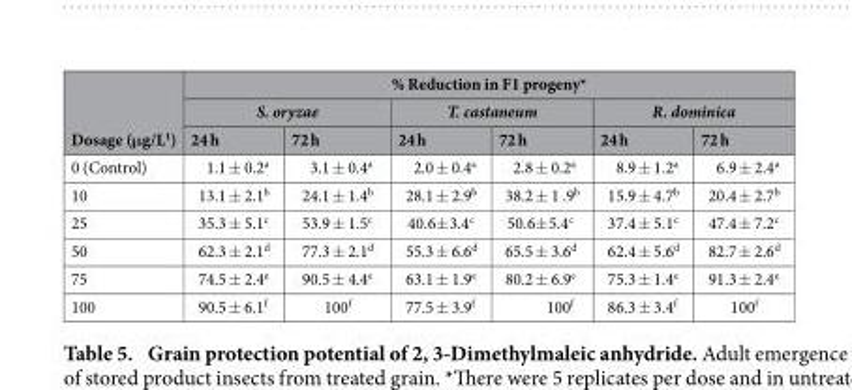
<table><thead><tr><td rowspan="3">Dosage (μg/L<sup>1</sup>)</td><td colspan="6">% Reduction in F1 progeny*</td></tr><tr><td colspan="2">S. oryzae</td><td colspan="2">T. castaneum</td><td colspan="2">R. dominica</td></tr><tr><td>24 h</td><td>72 h</td><td>24 h</td><td>72 h</td><td>24 h</td><td>72 h</td></tr></thead><tbody><tr><td>0 (Control)</td><td>1.1 ± 0.2<sup>a</sup></td><td>3.1 ± 0.4<sup>a</sup></td><td>2.0 ± 0.4<sup>a</sup></td><td>2.8 ± 0.2<sup>a</sup></td><td>8.9 ± 1.2<sup>a</sup></td><td>6.9 ± 2.4<sup>a</sup></td></tr><tr><td>10</td><td>13.1 ± 2.1<sup>b</sup></td><td>24.1 ± 1.4<sup>b</sup></td><td>28.1 ± 2.9<sup>b</sup></td><td>38.2 ± 1 .9<sup>b</sup></td><td>15.9 ± 4.7<sup>b</sup></td><td>20.4 ± 2.7<sup>b</sup></td></tr><tr><td>25</td><td>35.3 ± 5.1<sup>c</sup></td><td>53.9 ± 1.5<sup>c</sup></td><td>40.6± 3.4<sup>c</sup></td><td>50.6± 5.4<sup>c</sup></td><td>37.4 ± 5.1<sup>c</sup></td><td>47.4 ± 7.2<sup>c</sup></td></tr><tr><td>50</td><td>62.3 ± 2.1<sup>d</sup></td><td>77.3 ± 2.1<sup>d</sup></td><td>55.3 ± 6.6<sup>d</sup></td><td>65.5 ± 3.6<sup>d</sup></td><td>62.4 ± 5.6<sup>d</sup></td><td>82.7 ± 2.6<sup>d</sup></td></tr><tr><td>75</td><td>74.5 ± 2.4<sup>e</sup></td><td>90.5 ± 4.4<sup>e</sup></td><td>63.1 ± 1.9<sup>e</sup></td><td>80.2 ± 6.9<sup>e</sup></td><td>75.3 ± 1.4<sup>e</sup></td><td>91.3 ± 2.4<sup>e</sup></td></tr><tr><td>100</td><td>90.5 ± 6.1<sup>f</sup></td><td>100<sup>f</sup></td><td>77.5 ± 3.9<sup>f</sup></td><td>100<sup>f</sup></td><td>86.3 ± 3.4<sup>f</sup></td><td>100<sup>f</sup></td></tr></tbody></table>